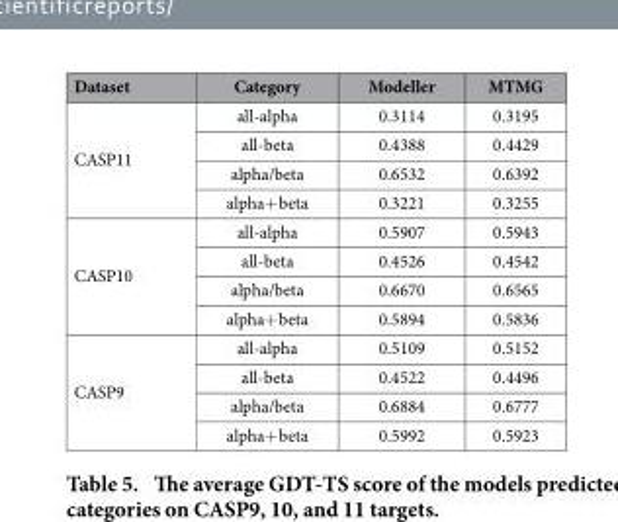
<table><thead><tr><td>Dataset</td><td>Category</td><td>Modeller</td><td>MTMG</td></tr></thead><tbody><tr><td rowspan="4">CASP11</td><td>all-alpha</td><td>0.3114</td><td>0.3195</td></tr><tr><td>all-beta</td><td>0.4388</td><td>0.4429</td></tr><tr><td>alpha/beta</td><td>0.6532</td><td>0.6392</td></tr><tr><td>alpha+ beta</td><td>0.3221</td><td>0.3255</td></tr><tr><td rowspan="4">CASP10</td><td>all-alpha</td><td>0.5907</td><td>0.5943</td></tr><tr><td>all-beta</td><td>0.4526</td><td>0.4542</td></tr><tr><td>alpha/beta</td><td>0.6670</td><td>0.6565</td></tr><tr><td>alpha+ beta</td><td>0.5894</td><td>0.5836</td></tr><tr><td rowspan="4">CASP9</td><td>all-alpha</td><td>0.5109</td><td>0.5152</td></tr><tr><td>all-beta</td><td>0.4522</td><td>0.4496</td></tr><tr><td>alpha/beta</td><td>0.6884</td><td>0.6777</td></tr><tr><td>alpha+ beta</td><td>0.5992</td><td>0.5923</td></tr></tbody></table>